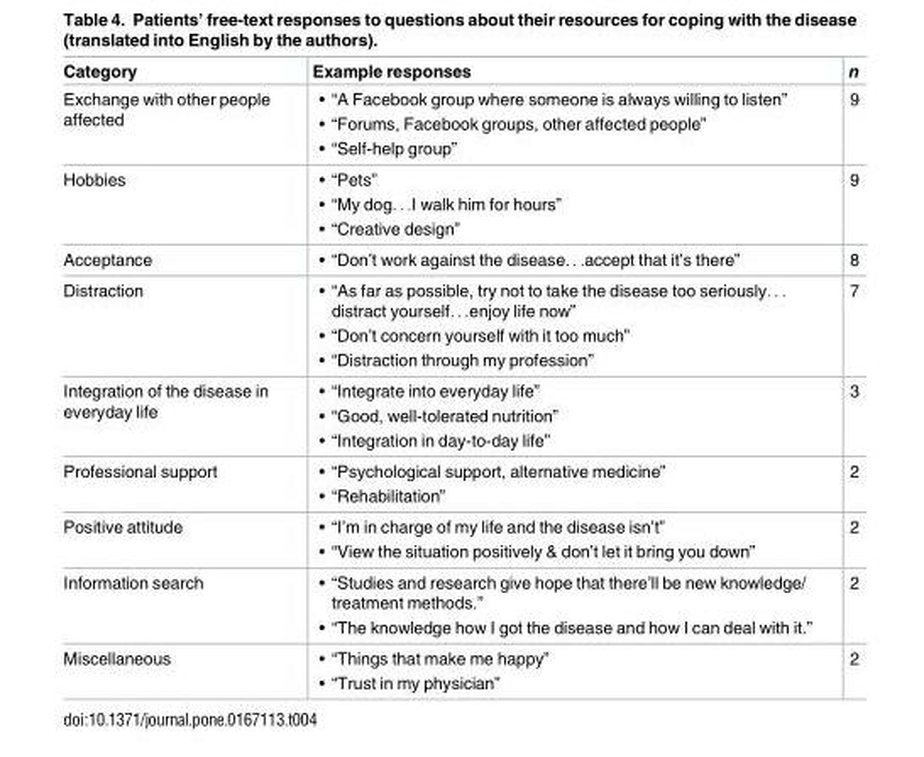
<table><thead><tr><td>Category</td><td>Example responses</td><td>n</td></tr></thead><tbody><tr><td>Exchange with other people affected</td><td>• “A Facebook group where someone is always willing to listen” • “Forums, Facebook groups, other affected people” • “Self-help group”</td><td>9</td></tr><tr><td>Hobbies</td><td>• “Pets” • “My dog. . .I walk him for hours” • “Creative design”</td><td>9</td></tr><tr><td>Acceptance</td><td>• “Don’t work against the disease. . .accept that it’s there”</td><td>8</td></tr><tr><td>Distraction</td><td>• “As far as possible, try not to take the disease too seriously. . . distract yourself. . .enjoy life now” • “Don’t concern yourself with it too much” • “Distraction through my profession”</td><td>7</td></tr><tr><td>Integration of the disease in everyday life</td><td>• “Integrate into everyday life” • “Good, well-tolerated nutrition” • “Integration in day-to-day life”</td><td>3</td></tr><tr><td>Professional support</td><td>• “Psychological support, alternative medicine” • “Rehabilitation”</td><td>2</td></tr><tr><td>Positive attitude</td><td>• “I’m in charge of my life and the disease isn’t” • “View the situation positively &amp; don’t let it bring you down”</td><td>2</td></tr><tr><td>Information search</td><td>• “Studies and research give hope that there’ll be new knowledge/ treatment methods.” • “The knowledge how I got the disease and how I can deal with it.”</td><td>2</td></tr><tr><td>Miscellaneous</td><td>• “Things that make me happy” • “Trust in my physician”</td><td>2</td></tr></tbody></table>